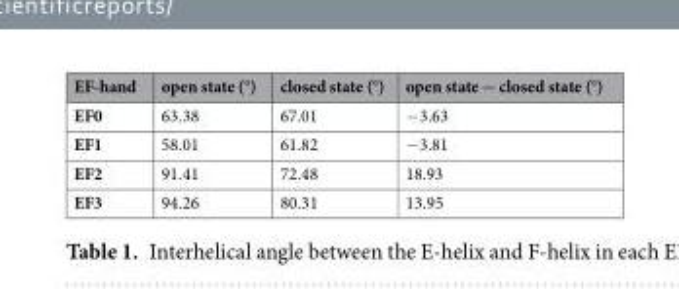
<table><thead><tr><td>EF-hand</td><td>open state (°)</td><td>closed state (°)</td><td>open state − closed state (°)</td></tr></thead><tbody><tr><td>EF0</td><td>63.38</td><td>67.01</td><td>−3.63</td></tr><tr><td>EF1</td><td>58.01</td><td>61.82</td><td>−3.81</td></tr><tr><td>EF2</td><td>91.41</td><td>72.48</td><td>18.93</td></tr><tr><td>EF3</td><td>94.26</td><td>80.31</td><td>13.95</td></tr></tbody></table>